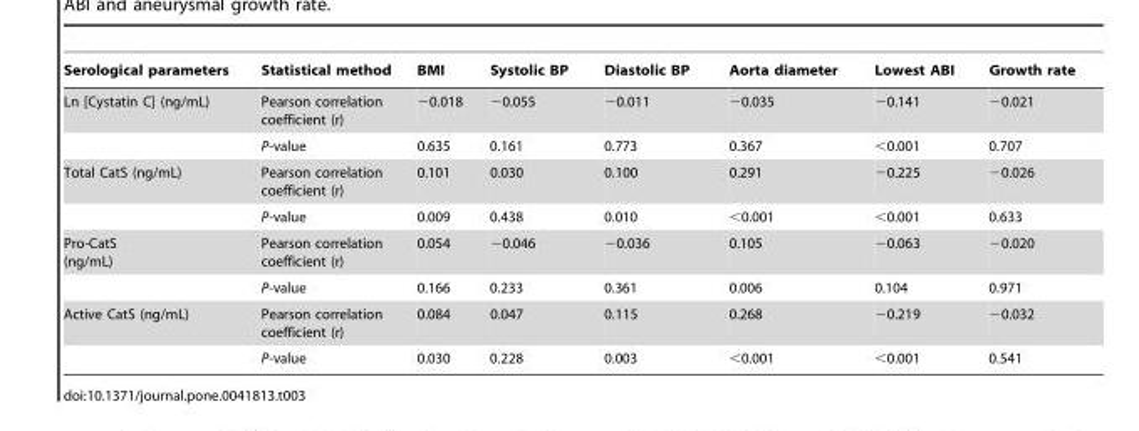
<table><thead><tr><td>Serological parameters</td><td>Statistical method</td><td>BMI</td><td>Systolic BP</td><td>Diastolic BP</td><td>Aorta diameter</td><td>Lowest ABI</td><td>Growth rate</td></tr></thead><tbody><tr><td rowspan="2">Ln [Cystatin C] (ng/mL)</td><td>Pearson correlation coefficient (r)</td><td>−0.018</td><td>−0.055</td><td>−0.011</td><td>−0.035</td><td>−0.141</td><td>−0.021</td></tr><tr><td>P-value</td><td>0.635</td><td>0.161</td><td>0.773</td><td>0.367</td><td>&lt;0.001</td><td>0.707</td></tr><tr><td rowspan="2">Total CatS (ng/mL)</td><td>Pearson correlation coefficient (r)</td><td>0.101</td><td>0.030</td><td>0.100</td><td>0.291</td><td>−0.225</td><td>−0.026</td></tr><tr><td>P-value</td><td>0.009</td><td>0.438</td><td>0.010</td><td>&lt;0.001</td><td>&lt;0.001</td><td>0.633</td></tr><tr><td rowspan="2">Pro-CatS (ng/mL)</td><td>Pearson correlation coefficient (r)</td><td>0.054</td><td>−0.046</td><td>−0.036</td><td>0.105</td><td>−0.063</td><td>−0.020</td></tr><tr><td>P-value</td><td>0.166</td><td>0.233</td><td>0.361</td><td>0.006</td><td>0.104</td><td>0.971</td></tr><tr><td rowspan="2">Active CatS (ng/mL)</td><td>Pearson correlation coefficient (r)</td><td>0.084</td><td>0.047</td><td>0.115</td><td>0.268</td><td>−0.219</td><td>−0.032</td></tr><tr><td>P-value</td><td>0.030</td><td>0.228</td><td>0.003</td><td>&lt;0.001</td><td>&lt;0.001</td><td>0.541</td></tr></tbody></table>